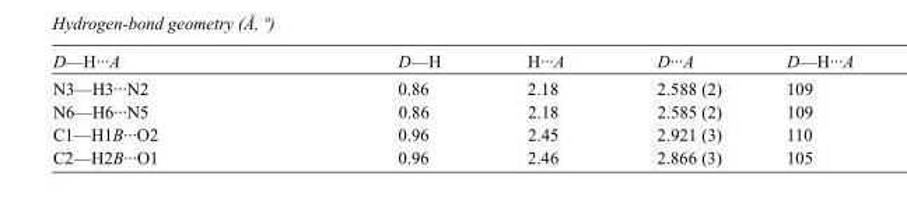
<table><tbody><tr><td>D—H···A</td><td>D—H</td><td>H···A</td><td>D···A</td><td>D—H···A</td></tr><tr><td>N3—H3···N2</td><td>0.86</td><td>2.18</td><td>2.588 (2)</td><td>109</td></tr><tr><td>N6—H6···N5</td><td>0.86</td><td>2.18</td><td>2.585 (2)</td><td>109</td></tr><tr><td>C1—H1B···O2</td><td>0.96</td><td>2.45</td><td>2.921 (3)</td><td>110</td></tr><tr><td>C2—H2B···O1</td><td>0.96</td><td>2.46</td><td>2.866 (3)</td><td>105</td></tr></tbody></table>